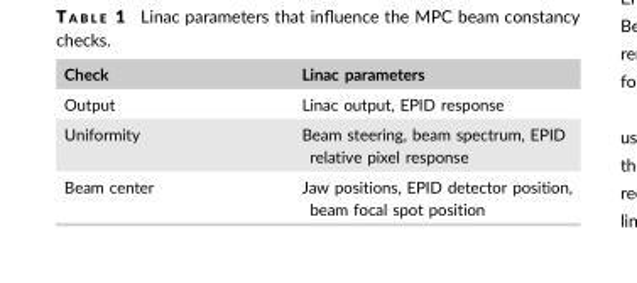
<table><thead><tr><td>Check</td><td>Linac parameters</td></tr></thead><tbody><tr><td>Output</td><td>Linac output, EPID response</td></tr><tr><td>Uniformity</td><td>Beam steering, beam spectrum, EPID relative pixel response</td></tr><tr><td>Beam center</td><td>Jaw positions, EPID detector position, beam focal spot position</td></tr></tbody></table>